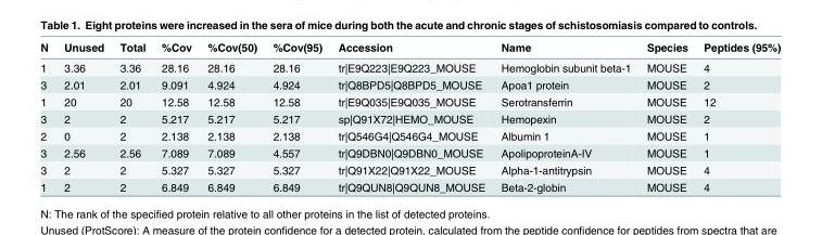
<table><thead><tr><td>N</td><td>Unused</td><td>Total</td><td>%Cov</td><td>%Cov(50)</td><td>%Cov(95)</td><td>Accession</td><td>Name</td><td>Species</td><td>Peptides (95%)</td></tr></thead><tbody><tr><td>1</td><td>3.36</td><td>3.36</td><td>28.16</td><td>28.16</td><td>28.16</td><td>tr|E9Q223|E9Q223_MOUSE</td><td>Hemoglobin subunit beta-1</td><td>MOUSE</td><td>4</td></tr><tr><td>3</td><td>2.01</td><td>2.01</td><td>9.091</td><td>4.924</td><td>4.924</td><td>tr|Q8BPD5|Q8BPD5_MOUSE</td><td>Apoa1 protein</td><td>MOUSE</td><td>2</td></tr><tr><td>1</td><td>20</td><td>20</td><td>12.58</td><td>12.58</td><td>12.58</td><td>tr|E9Q035|E9Q035_MOUSE</td><td>Serotransferrin</td><td>MOUSE</td><td>12</td></tr><tr><td>3</td><td>2</td><td>2</td><td>5.217</td><td>5.217</td><td>5.217</td><td>sp|Q91X72|HEMO_MOUSE</td><td>Hemopexin</td><td>MOUSE</td><td>2</td></tr><tr><td>2</td><td>0</td><td>2</td><td>2.138</td><td>2.138</td><td>2.138</td><td>tr|Q546G4|Q546G4_MOUSE</td><td>Albumin 1</td><td>MOUSE</td><td>1</td></tr><tr><td>3</td><td>2.56</td><td>2.56</td><td>7.089</td><td>7.089</td><td>4.557</td><td>tr|Q9DBN0|Q9DBN0_MOUSE</td><td>ApolipoproteinA-IV</td><td>MOUSE</td><td>1</td></tr><tr><td>3</td><td>2</td><td>2</td><td>5.327</td><td>5.327</td><td>5.327</td><td>tr|Q91X22|Q91X22_MOUSE</td><td>Alpha-1-antitrypsin</td><td>MOUSE</td><td>4</td></tr><tr><td>1</td><td>2</td><td>2</td><td>6.849</td><td>6.849</td><td>6.849</td><td>tr|Q9QUN8|Q9QUN8_MOUSE</td><td>Beta-2-globin</td><td>MOUSE</td><td>4</td></tr></tbody></table>